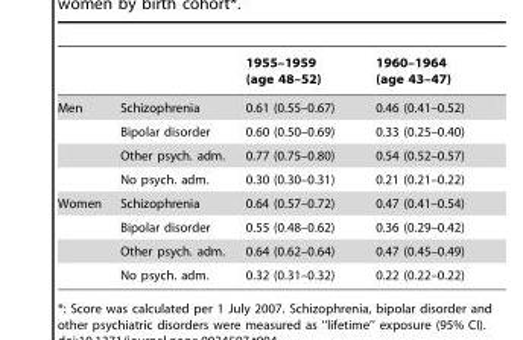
<table><thead><tr><td></td><td></td><td>1955–1959 (age 48–52)</td><td>1960–1964 (age 43–47)</td></tr></thead><tbody><tr><td rowspan="4">Men</td><td>Schizophrenia</td><td>0.61 (0.55–0.67)</td><td>0.46 (0.41–0.52)</td></tr><tr><td>Bipolar disorder</td><td>0.60 (0.50–0.69)</td><td>0.33 (0.25–0.40)</td></tr><tr><td>Other psych. adm.</td><td>0.77 (0.75–0.80)</td><td>0.54 (0.52–0.57)</td></tr><tr><td>No psych. adm.</td><td>0.30 (0.30–0.31)</td><td>0.21 (0.21–0.22)</td></tr><tr><td rowspan="4">Women</td><td>Schizophrenia</td><td>0.64 (0.57–0.72)</td><td>0.47 (0.41–0.54)</td></tr><tr><td>Bipolar disorder</td><td>0.55 (0.48–0.62)</td><td>0.36 (0.29–0.42)</td></tr><tr><td>Other psych. adm.</td><td>0.64 (0.62–0.64)</td><td>0.47 (0.45–0.49)</td></tr><tr><td>No psych. adm.</td><td>0.32 (0.31–0.32)</td><td>0.22 (0.22–0.22)</td></tr></tbody></table>